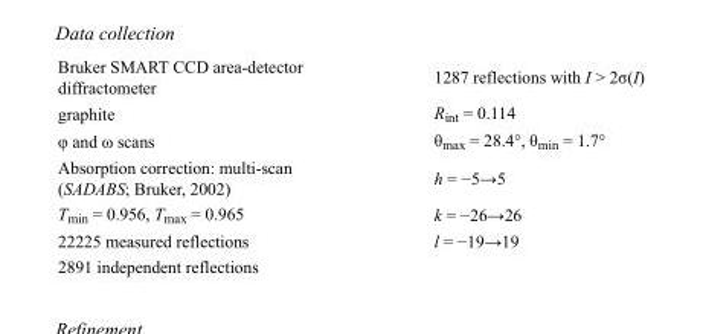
<table><tbody><tr><td>Bruker SMART CCD area-detector diffractometer</td><td>1287 reflections with I &gt; 2σ(I)</td></tr><tr><td>graphite</td><td>R<sub>int</sub> = 0.114</td></tr><tr><td>φ and ω scans</td><td>θ<sub>max</sub> = 28.4°, θ<sub>min</sub> = 1.7°</td></tr><tr><td>Absorption correction: multi-scan (SADABS; Bruker, 2002)</td><td>h = −5→5</td></tr><tr><td>T<sub>min</sub> = 0.956, T<sub>max</sub> = 0.965</td><td>k = −26→26</td></tr><tr><td>22225 measured reflections</td><td>l = −19→19</td></tr><tr><td>2891 independent reflections</td><td></td></tr></tbody></table>